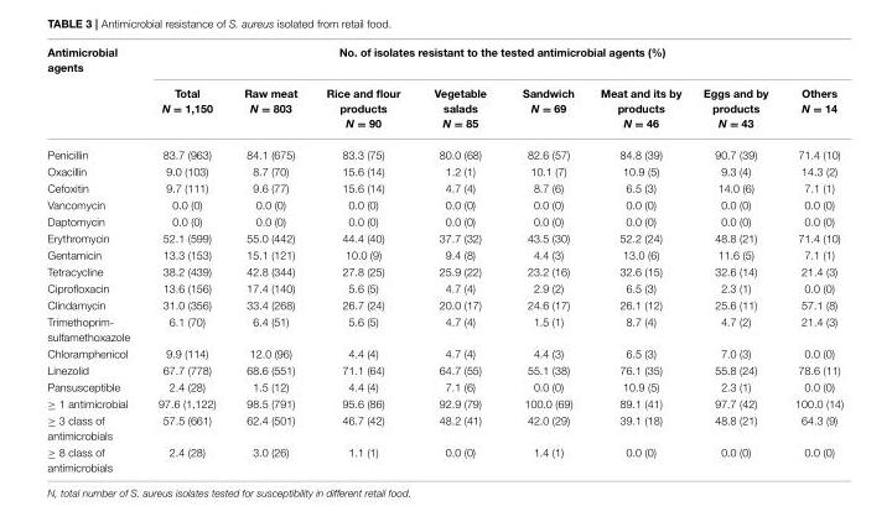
<table><thead><tr><td rowspan="2">Antimicrobial agents</td><td colspan="8">No. of isolates resistant to the tested antimicrobial agents (%)</td></tr><tr><td>Total N = 1,150</td><td>Raw meat N = 803</td><td>Rice and flour products N = 90</td><td>Vegetable salads N = 85</td><td>Sandwich N = 69</td><td>Meat and its by products N = 46</td><td>Eggs and by products N = 43</td><td>Others N = 14</td></tr></thead><tbody><tr><td>Penicillin</td><td>83.7 (963)</td><td>84.1 (675)</td><td>83.3 (75)</td><td>80.0 (68)</td><td>82.6 (57)</td><td>84.8 (39)</td><td>90.7 (39)</td><td>71.4 (10)</td></tr><tr><td>Oxacillin</td><td>9.0 (103)</td><td>8.7 (70)</td><td>15.6 (14)</td><td>1.2 (1)</td><td>10.1 (7)</td><td>10.9 (5)</td><td>9.3 (4)</td><td>14.3 (2)</td></tr><tr><td>Cefoxitin</td><td>9.7 (111)</td><td>9.6 (77)</td><td>15.6 (14)</td><td>4.7 (4)</td><td>8.7 (6)</td><td>6.5 (3)</td><td>14.0 (6)</td><td>7.1 (1)</td></tr><tr><td>Vancomycin</td><td>0.0 (0)</td><td>0.0 (0)</td><td>0.0 (0)</td><td>0.0 (0)</td><td>0.0 (0)</td><td>0.0 (0)</td><td>0.0 (0)</td><td>0.0 (0)</td></tr><tr><td>Daptomycin</td><td>0.0 (0)</td><td>0.0 (0)</td><td>0.0 (0)</td><td>0.0 (0)</td><td>0.0 (0)</td><td>0.0 (0)</td><td>0.0 (0)</td><td>0.0 (0)</td></tr><tr><td>Erythromycin</td><td>52.1 (599)</td><td>55.0 (442)</td><td>44.4 (40)</td><td>37.7 (32)</td><td>43.5 (30)</td><td>52.2 (24)</td><td>48.8 (21)</td><td>71.4 (10)</td></tr><tr><td>Gentamicin</td><td>13.3 (153)</td><td>15.1 (121)</td><td>10.0 (9)</td><td>9.4 (8)</td><td>4.4 (3)</td><td>13.0 (6)</td><td>11.6 (5)</td><td>7.1 (1)</td></tr><tr><td>Tetracycline</td><td>38.2 (439)</td><td>42.8 (344)</td><td>27.8 (25)</td><td>25.9 (22)</td><td>23.2 (16)</td><td>32.6 (15)</td><td>32.6 (14)</td><td>21.4 (3)</td></tr><tr><td>Ciprofloxacin</td><td>13.6 (156)</td><td>17.4 (140)</td><td>5.6 (5)</td><td>4.7 (4)</td><td>2.9 (2)</td><td>6.5 (3)</td><td>2.3 (1)</td><td>0.0 (0)</td></tr><tr><td>Clindamycin</td><td>31.0 (356)</td><td>33.4 (268)</td><td>26.7 (24)</td><td>20.0 (17)</td><td>24.6 (17)</td><td>26.1 (12)</td><td>25.6 (11)</td><td>57.1 (8)</td></tr><tr><td>Trimethoprim- sulfamethoxazole</td><td>6.1 (70)</td><td>6.4 (51)</td><td>5.6 (5)</td><td>4.7 (4)</td><td>1.5 (1)</td><td>8.7 (4)</td><td>4.7 (2)</td><td>21.4 (3)</td></tr><tr><td>Chloramphenicol</td><td>9.9 (114)</td><td>12.0 (96)</td><td>4.4 (4)</td><td>4.7 (4)</td><td>4.4 (3)</td><td>6.5 (3)</td><td>7.0 (3)</td><td>0.0 (0)</td></tr><tr><td>Linezolid</td><td>67.7 (778)</td><td>68.6 (551)</td><td>71.1 (64)</td><td>64.7 (55)</td><td>55.1 (38)</td><td>76.1 (35)</td><td>55.8 (24)</td><td>78.6 (11)</td></tr><tr><td>Pansusceptible</td><td>2.4 (28)</td><td>1.5 (12)</td><td>4.4 (4)</td><td>7.1 (6)</td><td>0.0 (0)</td><td>10.9 (5)</td><td>2.3 (1)</td><td>0.0 (0)</td></tr><tr><td>≥ 1 antimicrobial</td><td>97.6 (1,122)</td><td>98.5 (791)</td><td>95.6 (86)</td><td>92.9 (79)</td><td>100.0 (69)</td><td>89.1 (41)</td><td>97.7 (42)</td><td>100.0 (14)</td></tr><tr><td>≥ 3 class of antimicrobials</td><td>57.5 (661)</td><td>62.4 (501)</td><td>46.7 (42)</td><td>48.2 (41)</td><td>42.0 (29)</td><td>39.1 (18)</td><td>48.8 (21)</td><td>64.3 (9)</td></tr><tr><td>≥ 8 class of antimicrobials</td><td>2.4 (28)</td><td>3.0 (26)</td><td>1.1 (1)</td><td>0.0 (0)</td><td>1.4 (1)</td><td>0.0 (0)</td><td>0.0 (0)</td><td>0.0 (0)</td></tr></tbody></table>